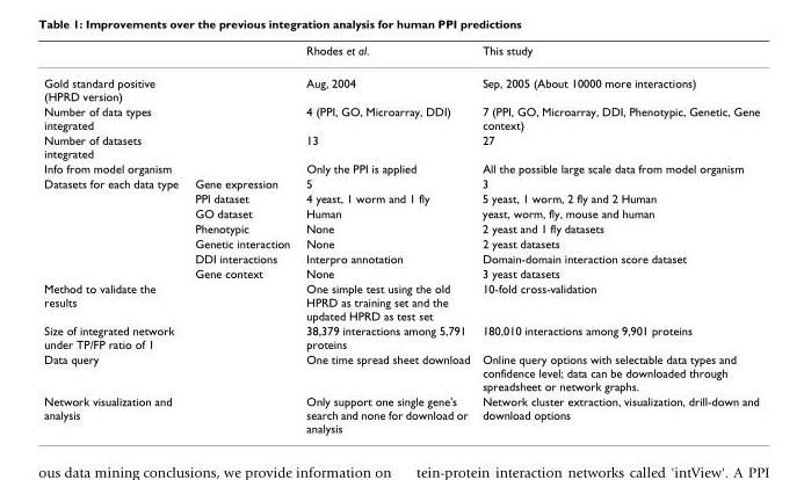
<table><thead><tr><td></td><td></td><td>Rhodes et al.</td><td>This study</td></tr></thead><tbody><tr><td>Gold standard positive (HPRD version)</td><td></td><td>Aug, 2004</td><td>Sep, 2005 (About 10000 more interactions)</td></tr><tr><td>Number of data types integrated</td><td></td><td>4 (PPI, GO, Microarray, DDI)</td><td>7 (PPI, GO, Microarray, DDI, Phenotypic, Genetic, Gene context)</td></tr><tr><td>Number of datasets integrated</td><td></td><td>13</td><td>27</td></tr><tr><td>Info from model organism</td><td></td><td>Only the PPI is applied</td><td>All the possible large scale data from model organism</td></tr><tr><td rowspan="7">Datasets for each data type</td><td>Gene expression</td><td>5</td><td>3</td></tr><tr><td>PPI dataset</td><td>4 yeast, 1 worm and 1 fly</td><td>5 yeast, 1 worm, 2 fly and 2 Human</td></tr><tr><td>GO dataset</td><td>Human</td><td>yeast, worm, fly, mouse and human</td></tr><tr><td>Phenotypic</td><td>None</td><td>2 yeast and 1 fly datasets</td></tr><tr><td>Genetic interaction</td><td>None</td><td>2 yeast datasets</td></tr><tr><td>DDI interactions</td><td>Interpro annotation</td><td>Domain-domain interaction score dataset</td></tr><tr><td>Gene context</td><td>None</td><td>3 yeast datasets</td></tr><tr><td>Method to validate the results</td><td></td><td>One simple test using the old HPRD as training set and the updated HPRD as test set</td><td>10-fold cross-validation</td></tr><tr><td>Size of integrated network under TP/FP ratio of 1</td><td></td><td>38,379 interactions among 5,791 proteins</td><td>180,010 interactions among 9,901 proteins</td></tr><tr><td>Data query</td><td></td><td>One time spread sheet download</td><td>Online query options with selectable data types and confidence level; data can be downloaded through spreadsheet or network graphs.</td></tr><tr><td>Network visualization and analysis</td><td></td><td>Only support one single gene&#x27;s search and none for download or analysis</td><td>Network cluster extraction, visualization, drill-down and download options</td></tr></tbody></table>